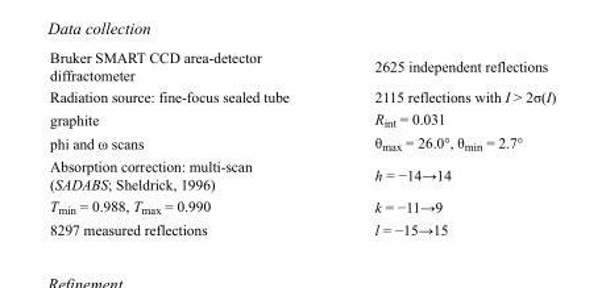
<table><tbody><tr><td>Bruker SMART CCD area-detector diffractometer</td><td>2625 independent reflections</td></tr><tr><td>Radiation source: fine-focus sealed tube</td><td>2115 reflections with I &gt; 2σ(I)</td></tr><tr><td>graphite</td><td>R<sub>int</sub> = 0.031</td></tr><tr><td>phi and ω scans</td><td>θ<sub>max</sub> = 26.0°, θ<sub>min</sub> = 2.7°</td></tr><tr><td>Absorption correction: multi-scan (SADABS; Sheldrick, 1996)</td><td>h = −14→14</td></tr><tr><td>T<sub>min</sub> = 0.988, T<sub>max</sub> = 0.990</td><td>k = −11→9</td></tr><tr><td>8297 measured reflections</td><td>l = −15→15</td></tr></tbody></table>